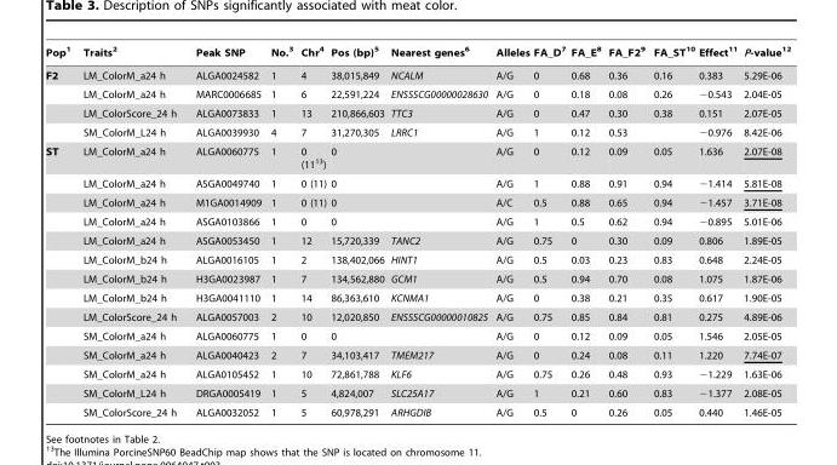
<table><thead><tr><td>Pop<sup>1</sup></td><td>Traits<sup>2</sup></td><td>Peak SNP</td><td>No.<sup>3</sup></td><td>Chr<sup>4</sup></td><td>Pos (bp)<sup>5</sup></td><td>Nearest genes<sup>6</sup></td><td>Alleles</td><td>FA_D<sup>7</sup></td><td>FA_E<sup>8</sup></td><td>FA_F2<sup>9</sup></td><td>FA_ST<sup>10</sup></td><td>Effect<sup>11</sup></td><td>P-value<sup>12</sup></td></tr></thead><tbody><tr><td rowspan="4">F2</td><td>LM_ColorM_a24 h</td><td>ALGA0024582</td><td>1</td><td>4</td><td>38,015,849</td><td>NCALM</td><td>A/G</td><td>0</td><td>0.68</td><td>0.36</td><td>0.16</td><td>0.383</td><td>5.29E-06</td></tr><tr><td>LM_ColorM_a24 h</td><td>MARC0006685</td><td>1</td><td>6</td><td>22,591,224</td><td>ENSSSCG00000028630</td><td>A/G</td><td>0</td><td>0.18</td><td>0.08</td><td>0.26</td><td>−0.543</td><td>2.04E-05</td></tr><tr><td>LM_ColorScore_24 h</td><td>ALGA0073833</td><td>1</td><td>13</td><td>210,866,603</td><td>TTC3</td><td>A/G</td><td>0</td><td>0.47</td><td>0.30</td><td>0.38</td><td>0.151</td><td>2.07E-05</td></tr><tr><td>SM_ColorM_L24 h</td><td>ALGA0039930</td><td>4</td><td>7</td><td>31,270,305</td><td>LRRC1</td><td>A/G</td><td>1</td><td>0.12</td><td>0.53</td><td></td><td>−0.976</td><td>8.42E-06</td></tr><tr><td rowspan="14">ST</td><td>LM_ColorM_a24 h</td><td>ALGA0060775</td><td>1</td><td>0 (11<sup>13</sup>)</td><td>0</td><td></td><td>A/G</td><td>0</td><td>0.12</td><td>0.09</td><td>0.05</td><td>1.636</td><td>2.07E-08</td></tr><tr><td>LM_ColorM_a24 h</td><td>ASGA0049740</td><td>1</td><td>0 (11)</td><td>0</td><td></td><td>A/G</td><td>1</td><td>0.88</td><td>0.91</td><td>0.94</td><td>−1.414</td><td>5.81E-08</td></tr><tr><td>LM_ColorM_a24 h</td><td>M1GA0014909</td><td>1</td><td>0 (11)</td><td>0</td><td></td><td>A/C</td><td>0.5</td><td>0.88</td><td>0.65</td><td>0.94</td><td>−1.457</td><td>3.71E-08</td></tr><tr><td>LM_ColorM_a24 h</td><td>ASGA0103866</td><td>1</td><td>0</td><td>0</td><td></td><td>A/G</td><td>1</td><td>0.5</td><td>0.62</td><td>0.94</td><td>−0.895</td><td>5.01E-06</td></tr><tr><td>LM_ColorM_a24 h</td><td>ASGA0053450</td><td>1</td><td>12</td><td>15,720,339</td><td>TANC2</td><td>A/G</td><td>0.75</td><td>0</td><td>0.30</td><td>0.09</td><td>0.806</td><td>1.89E-05</td></tr><tr><td>LM_ColorM_b24 h</td><td>ALGA0016105</td><td>1</td><td>2</td><td>138,402,066</td><td>HINT1</td><td>A/G</td><td>0.5</td><td>0.03</td><td>0.23</td><td>0.83</td><td>0.648</td><td>2.24E-05</td></tr><tr><td>LM_ColorM_b24 h</td><td>H3GA0023987</td><td>1</td><td>7</td><td>134,562,880</td><td>GCM1</td><td>A/G</td><td>0.5</td><td>0.94</td><td>0.70</td><td>0.08</td><td>1.075</td><td>1.87E-06</td></tr><tr><td>LM_ColorM_b24 h</td><td>H3GA0041110</td><td>1</td><td>14</td><td>86,363,610</td><td>KCNMA1</td><td>A/G</td><td>0</td><td>0.38</td><td>0.21</td><td>0.35</td><td>0.617</td><td>1.90E-05</td></tr><tr><td>LM_ColorScore_24 h</td><td>ALGA0057003</td><td>2</td><td>10</td><td>12,020,850</td><td>ENSSSCG00000010825</td><td>A/G</td><td>0.75</td><td>0.85</td><td>0.84</td><td>0.81</td><td>0.275</td><td>4.89E-06</td></tr><tr><td>SM_ColorM_a24 h</td><td>ALGA0060775</td><td>1</td><td>0</td><td>0</td><td></td><td>A/G</td><td>0</td><td>0.12</td><td>0.09</td><td>0.05</td><td>1.546</td><td>2.05E-05</td></tr><tr><td>SM_ColorM_a24 h</td><td>ALGA0040423</td><td>2</td><td>7</td><td>34,103,417</td><td>TMEM217</td><td>A/G</td><td>0</td><td>0.24</td><td>0.08</td><td>0.11</td><td>1.220</td><td>7.74E-07</td></tr><tr><td>SM_ColorM_a24 h</td><td>ALGA0105452</td><td>1</td><td>10</td><td>72,861,788</td><td>KLF6</td><td>A/G</td><td>0.75</td><td>0.26</td><td>0.48</td><td>0.93</td><td>−1.229</td><td>1.63E-06</td></tr><tr><td>SM_ColorM_L24 h</td><td>DRGA0005419</td><td>1</td><td>5</td><td>4,824,007</td><td>SLC25A17</td><td>A/G</td><td>1</td><td>0.21</td><td>0.60</td><td>0.83</td><td>−1.377</td><td>2.08E-05</td></tr><tr><td>SM_ColorScore_24 h</td><td>ALGA0032052</td><td>1</td><td>5</td><td>60,978,291</td><td>ARHGDIB</td><td>A/G</td><td>0.5</td><td>0</td><td>0.26</td><td>0.05</td><td>0.440</td><td>1.46E-05</td></tr></tbody></table>